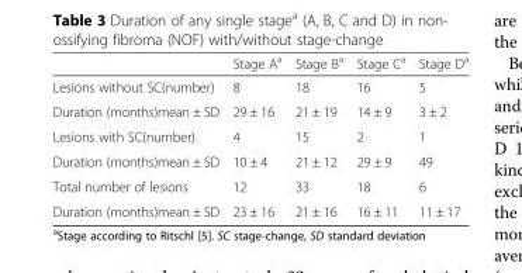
<table><thead><tr><td></td><td>Stage A<sup>a</sup></td><td>Stage B<sup>a</sup></td><td>Stage C<sup>a</sup></td><td>Stage D<sup>a</sup></td></tr></thead><tbody><tr><td>Lesions without SC(number)</td><td>8</td><td>18</td><td>16</td><td>5</td></tr><tr><td>Duration (months)mean ± SD</td><td>29 ± 16</td><td>21 ± 19</td><td>14 ± 9</td><td>3 ± 2</td></tr><tr><td>Lesions with SC(number)</td><td>4</td><td>15</td><td>2</td><td>1</td></tr><tr><td>Duration (months)mean ± SD</td><td>10 ± 4</td><td>21 ± 12</td><td>29 ± 9</td><td>49</td></tr><tr><td>Total number of lesions</td><td>12</td><td>33</td><td>18</td><td>6</td></tr><tr><td>Duration (months)mean ± SD</td><td>23 ± 16</td><td>21 ± 16</td><td>16 ± 11</td><td>11 ± 17</td></tr></tbody></table>